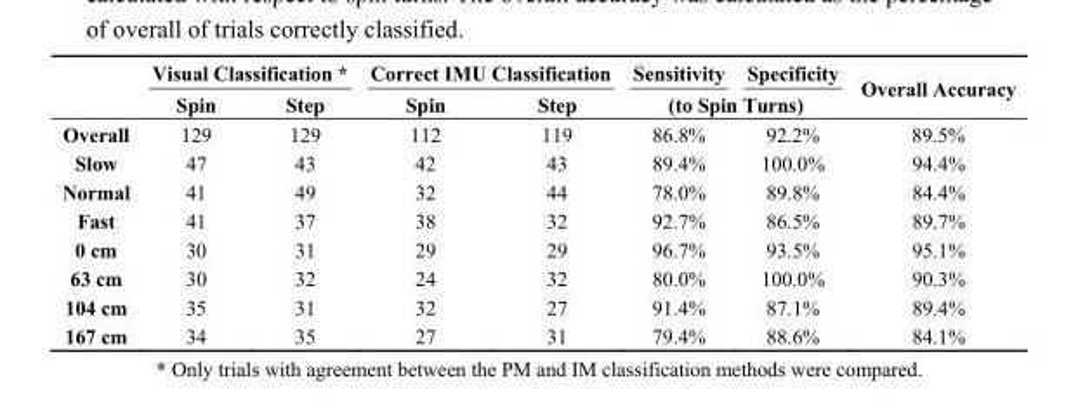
<table><thead><tr><td rowspan="2"></td><td colspan="2">Visual Classification *</td><td colspan="2">Correct IMU Classification</td><td>Sensitivity</td><td>Specificity</td><td rowspan="2">Overall Accuracy</td></tr><tr><td>Spin</td><td>Step</td><td>Spin</td><td>Step</td><td colspan="2">(to Spin Turns)</td></tr></thead><tbody><tr><td>Overall</td><td>129</td><td>129</td><td>112</td><td>119</td><td>86.8%</td><td>92.2%</td><td>89.5%</td></tr><tr><td>Slow</td><td>47</td><td>43</td><td>42</td><td>43</td><td>89.4%</td><td>100.0%</td><td>94.4%</td></tr><tr><td>Normal</td><td>41</td><td>49</td><td>32</td><td>44</td><td>78.0%</td><td>89.8%</td><td>84.4%</td></tr><tr><td>Fast</td><td>41</td><td>37</td><td>38</td><td>32</td><td>92.7%</td><td>86.5%</td><td>89.7%</td></tr><tr><td>0 cm</td><td>30</td><td>31</td><td>29</td><td>29</td><td>96.7%</td><td>93.5%</td><td>95.1%</td></tr><tr><td>63 cm</td><td>30</td><td>32</td><td>24</td><td>32</td><td>80.0%</td><td>100.0%</td><td>90.3%</td></tr><tr><td>104 cm</td><td>35</td><td>31</td><td>32</td><td>27</td><td>91.4%</td><td>87.1%</td><td>89.4%</td></tr><tr><td>167 cm</td><td>34</td><td>35</td><td>27</td><td>31</td><td>79.4%</td><td>88.6%</td><td>84.1%</td></tr></tbody></table>